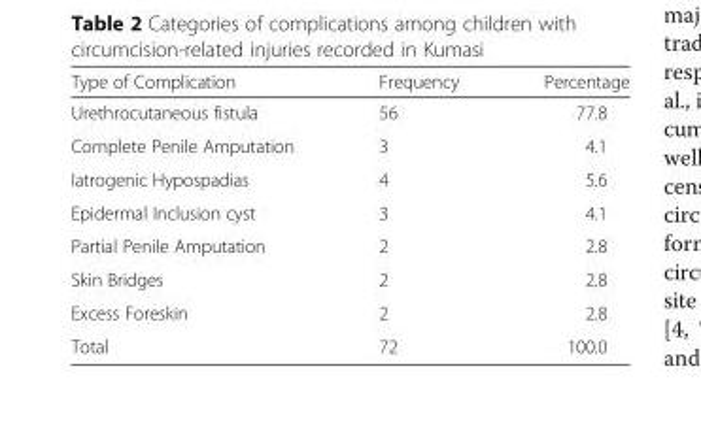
<table><thead><tr><td>Type of Complication</td><td>Frequency</td><td>Percentage</td></tr></thead><tbody><tr><td>Urethrocutaneous fistula</td><td>56</td><td>77.8</td></tr><tr><td>Complete Penile Amputation</td><td>3</td><td>4.1</td></tr><tr><td>Iatrogenic Hypospadias</td><td>4</td><td>5.6</td></tr><tr><td>Epidermal Inclusion cyst</td><td>3</td><td>4.1</td></tr><tr><td>Partial Penile Amputation</td><td>2</td><td>2.8</td></tr><tr><td>Skin Bridges</td><td>2</td><td>2.8</td></tr><tr><td>Excess Foreskin</td><td>2</td><td>2.8</td></tr><tr><td>Total</td><td>72</td><td>100.0</td></tr></tbody></table>